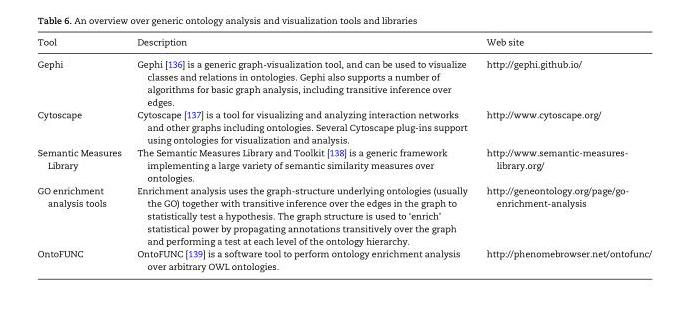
<table><thead><tr><td>Tool</td><td>Description</td><td>Web site</td></tr></thead><tbody><tr><td>Gephi</td><td>Gephi [136] is a generic graph-visualization tool, and can be used to visualize classes and relations in ontologies. Gephi also supports a number of algorithms for basic graph analysis, including transitive inference over edges.</td><td>http://gephi.github.io/</td></tr><tr><td>Cytoscape</td><td>Cytoscape [137] is a tool for visualizing and analyzing interaction networks and other graphs including ontologies. Several Cytoscape plug-ins support using ontologies for visualization and analysis.</td><td>http://www.cytoscape.org/</td></tr><tr><td>Semantic Measures Library</td><td>The Semantic Measures Library and Toolkit [138] is a generic framework implementing a large variety of semantic similarity measures over ontologies.</td><td>http://www.semantic-measures- library.org/</td></tr><tr><td>GO enrichment analysis tools</td><td>Enrichment analysis uses the graph-structure underlying ontologies (usually the GO) together with transitive inference over the edges in the graph to statistically test a hypothesis. The graph structure is used to ‘enrich’ statistical power by propagating annotations transitively over the graph and performing a test at each level of the ontology hierarchy.</td><td>http://geneontology.org/page/go- enrichment-analysis</td></tr><tr><td>OntoFUNC</td><td>OntoFUNC [139] is a software tool to perform ontology enrichment analysis over arbitrary OWL ontologies.</td><td>http://phenomebrowser.net/ontofunc/</td></tr></tbody></table>